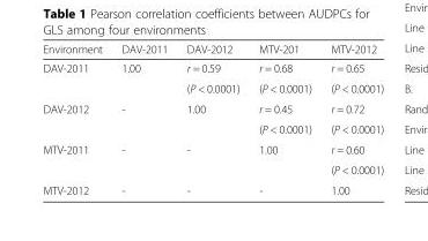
<table><thead><tr><td>Environment</td><td>DAV-2011</td><td>DAV-2012</td><td>MTV-201</td><td>MTV-2012</td></tr></thead><tbody><tr><td rowspan="2">DAV-2011</td><td rowspan="2">1.00</td><td>r = 0.59</td><td>r = 0.68</td><td>r = 0.65</td></tr><tr><td>(P &lt; 0.0001)</td><td>(P &lt; 0.0001)</td><td>(P &lt; 0.0001)</td></tr><tr><td rowspan="2">DAV-2012</td><td rowspan="2">-</td><td rowspan="2">1.00</td><td>r = 0.45</td><td>r = 0.72</td></tr><tr><td>(P &lt; 0.0001)</td><td>(P &lt; 0.0001)</td></tr><tr><td rowspan="2">MTV-2011</td><td rowspan="2">-</td><td rowspan="2">-</td><td rowspan="2">1.00</td><td>r = 0.60</td></tr><tr><td>(P &lt; 0.0001)</td></tr><tr><td>MTV-2012</td><td>-</td><td>-</td><td>-</td><td>1.00</td></tr></tbody></table>